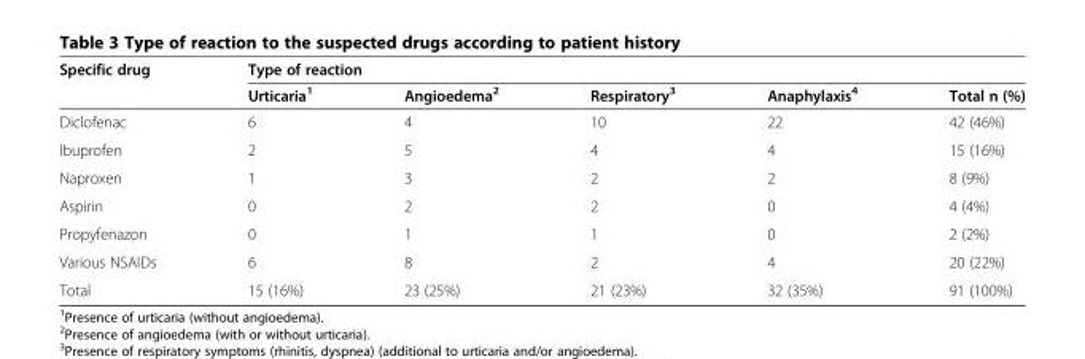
<table><thead><tr><td rowspan="2">Specific drug</td><td colspan="5">Type of reaction</td></tr><tr><td>Urticaria<sup>1</sup></td><td>Angioedema<sup>2</sup></td><td>Respiratory<sup>3</sup></td><td>Anaphylaxis<sup>4</sup></td><td>Total n (%)</td></tr></thead><tbody><tr><td>Diclofenac</td><td>6</td><td>4</td><td>10</td><td>22</td><td>42 (46%)</td></tr><tr><td>Ibuprofen</td><td>2</td><td>5</td><td>4</td><td>4</td><td>15 (16%)</td></tr><tr><td>Naproxen</td><td>1</td><td>3</td><td>2</td><td>2</td><td>8 (9%)</td></tr><tr><td>Aspirin</td><td>0</td><td>2</td><td>2</td><td>0</td><td>4 (4%)</td></tr><tr><td>Propyfenazon</td><td>0</td><td>1</td><td>1</td><td>0</td><td>2 (2%)</td></tr><tr><td>Various NSAIDs</td><td>6</td><td>8</td><td>2</td><td>4</td><td>20 (22%)</td></tr><tr><td>Total</td><td>15 (16%)</td><td>23 (25%)</td><td>21 (23%)</td><td>32 (35%)</td><td>91 (100%)</td></tr></tbody></table>